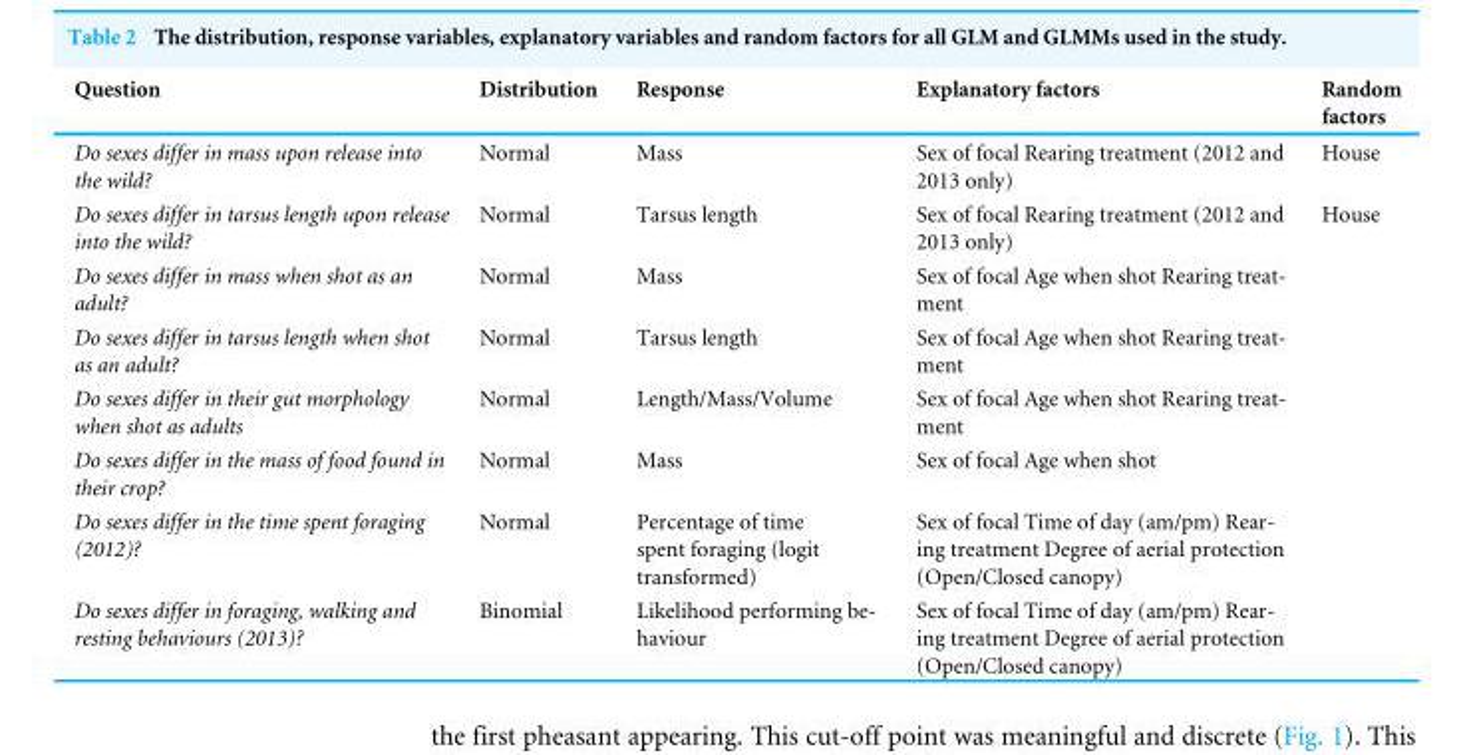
<table><thead><tr><td>Question</td><td>Distribution</td><td>Response</td><td>Explanatory factors</td><td>Random factors</td></tr></thead><tbody><tr><td>Do sexes differ in mass upon release into the wild?</td><td>Normal</td><td>Mass</td><td>Sex of focal Rearing treatment (2012 and 2013 only)</td><td>House</td></tr><tr><td>Do sexes differ in tarsus length upon release into the wild?</td><td>Normal</td><td>Tarsus length</td><td>Sex of focal Rearing treatment (2012 and 2013 only)</td><td>House</td></tr><tr><td>Do sexes differ in mass when shot as an adult?</td><td>Normal</td><td>Mass</td><td>Sex of focal Age when shot Rearing treat- ment</td><td></td></tr><tr><td>Do sexes differ in tarsus length when shot as an adult?</td><td>Normal</td><td>Tarsus length</td><td>Sex of focal Age when shot Rearing treat- ment</td><td></td></tr><tr><td>Do sexes differ in their gut morphology when shot as adults</td><td>Normal</td><td>Length/Mass/Volume</td><td>Sex of focal Age when shot Rearing treat- ment</td><td></td></tr><tr><td>Do sexes differ in the mass of food found in their crop?</td><td>Normal</td><td>Mass</td><td>Sex of focal Age when shot</td><td></td></tr><tr><td>Do sexes differ in the time spent foraging (2012)?</td><td>Normal</td><td>Percentage of time spent foraging (logit transformed)</td><td>Sex of focal Time of day (am/pm) Rear- ing treatment Degree of aerial protection (Open/Closed canopy)</td><td></td></tr><tr><td>Do sexes differ in foraging, walking and resting behaviours (2013)?</td><td>Binomial</td><td>Likelihood performing be- haviour</td><td>Sex of focal Time of day (am/pm) Rear- ing treatment Degree of aerial protection (Open/Closed canopy)</td><td></td></tr></tbody></table>